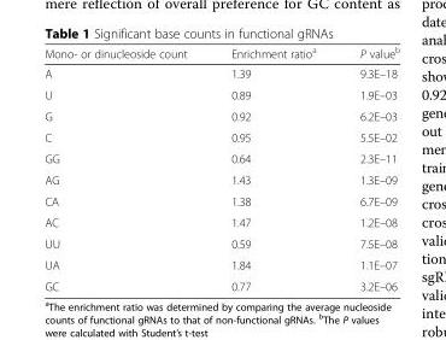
<table><thead><tr><td>Mono- or dinucleoside count</td><td>Enrichment ratio<sup>a</sup></td><td>P value<sup>b</sup></td></tr></thead><tbody><tr><td>A</td><td>1.39</td><td>9.3E–18</td></tr><tr><td>U</td><td>0.89</td><td>1.9E–03</td></tr><tr><td>G</td><td>0.92</td><td>6.2E–03</td></tr><tr><td>C</td><td>0.95</td><td>5.5E–02</td></tr><tr><td>GG</td><td>0.64</td><td>2.3E–11</td></tr><tr><td>AG</td><td>1.43</td><td>1.3E–09</td></tr><tr><td>CA</td><td>1.38</td><td>6.7E–09</td></tr><tr><td>AC</td><td>1.47</td><td>1.2E–08</td></tr><tr><td>UU</td><td>0.59</td><td>7.5E–08</td></tr><tr><td>UA</td><td>1.84</td><td>1.1E–07</td></tr><tr><td>GC</td><td>0.77</td><td>3.2E–06</td></tr></tbody></table>